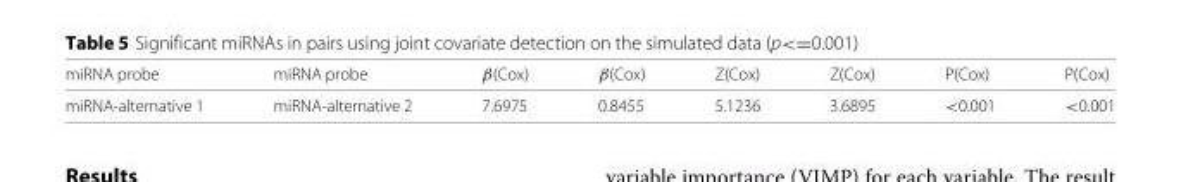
<table><thead><tr><td>miRNA probe</td><td>miRNA probe</td><td>β(Cox)</td><td>β(Cox)</td><td>Z(Cox)</td><td>Z(Cox)</td><td>P(Cox)</td><td>P(Cox)</td></tr></thead><tbody><tr><td>miRNA-alternative 1</td><td>miRNA-alternative 2</td><td>7.6975</td><td>0.8455</td><td>5.1236</td><td>3.6895</td><td>&lt;0.001</td><td>&lt;0.001</td></tr></tbody></table>